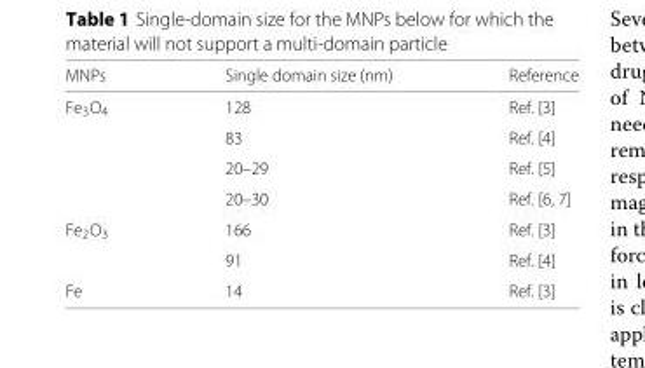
<table><thead><tr><td>MNPs</td><td>Single domain size (nm)</td><td>Reference</td></tr></thead><tbody><tr><td rowspan="4">Fe<sub>3</sub>O<sub>4</sub></td><td>128</td><td>Ref. [3]</td></tr><tr><td>83</td><td>Ref. [4]</td></tr><tr><td>20–29</td><td>Ref. [5]</td></tr><tr><td>20–30</td><td>Ref. [6, 7]</td></tr><tr><td rowspan="2">Fe<sub>2</sub>O<sub>3</sub></td><td>166</td><td>Ref. [3]</td></tr><tr><td>91</td><td>Ref. [4]</td></tr><tr><td>Fe</td><td>14</td><td>Ref. [3]</td></tr></tbody></table>